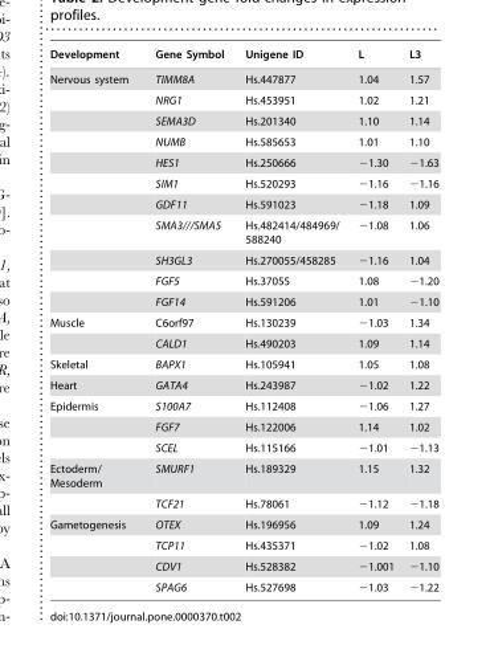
<table><thead><tr><td>Development</td><td>Gene Symbol</td><td>Unigene ID</td><td>L</td><td>L3</td></tr></thead><tbody><tr><td rowspan="11">Nervous system</td><td>TIMM8A</td><td>Hs.447877</td><td>1.04</td><td>1.57</td></tr><tr><td>NRG1</td><td>Hs.453951</td><td>1.02</td><td>1.21</td></tr><tr><td>SEMA3D</td><td>Hs.201340</td><td>1.10</td><td>1.14</td></tr><tr><td>NUMB</td><td>Hs.585653</td><td>1.01</td><td>1.10</td></tr><tr><td>HES1</td><td>Hs.250666</td><td>−1.30</td><td>−1.63</td></tr><tr><td>SIM1</td><td>Hs.520293</td><td>−1.16</td><td>−1.16</td></tr><tr><td>GDF11</td><td>Hs.591023</td><td>−1.18</td><td>1.09</td></tr><tr><td>SMA3///SMA5</td><td>Hs.482414/484969/ 588240</td><td>−1.08</td><td>1.06</td></tr><tr><td>SH3GL3</td><td>Hs.270055/458285</td><td>−1.16</td><td>1.04</td></tr><tr><td>FGF5</td><td>Hs.37055</td><td>1.08</td><td>−1.20</td></tr><tr><td>FGF14</td><td>Hs.591206</td><td>1.01</td><td>−1.10</td></tr><tr><td rowspan="2">Muscle</td><td>C6orf97</td><td>Hs.130239</td><td>−1.03</td><td>1.34</td></tr><tr><td>CALD1</td><td>Hs.490203</td><td>1.09</td><td>1.14</td></tr><tr><td>Skeletal</td><td>BAPX1</td><td>Hs.105941</td><td>1.05</td><td>1.08</td></tr><tr><td>Heart</td><td>GATA4</td><td>Hs.243987</td><td>−1.02</td><td>1.22</td></tr><tr><td rowspan="3">Epidermis</td><td>S100A7</td><td>Hs.112408</td><td>−1.06</td><td>1.27</td></tr><tr><td>FGF7</td><td>Hs.122006</td><td>1.14</td><td>1.02</td></tr><tr><td>SCEL</td><td>Hs.115166</td><td>−1.01</td><td>−1.13</td></tr><tr><td rowspan="2">Ectoderm/ Mesoderm</td><td>SMURF1</td><td>Hs.189329</td><td>1.15</td><td>1.32</td></tr><tr><td>TCF21</td><td>Hs.78061</td><td>−1.12</td><td>−1.18</td></tr><tr><td rowspan="4">Gametogenesis</td><td>OTEX</td><td>Hs.196956</td><td>1.09</td><td>1.24</td></tr><tr><td>TCP11</td><td>Hs.435371</td><td>−1.02</td><td>1.08</td></tr><tr><td>CDV1</td><td>Hs.528382</td><td>−1.001</td><td>−1.10</td></tr><tr><td>SPAG6</td><td>Hs.527698</td><td>−1.03</td><td>−1.22</td></tr></tbody></table>